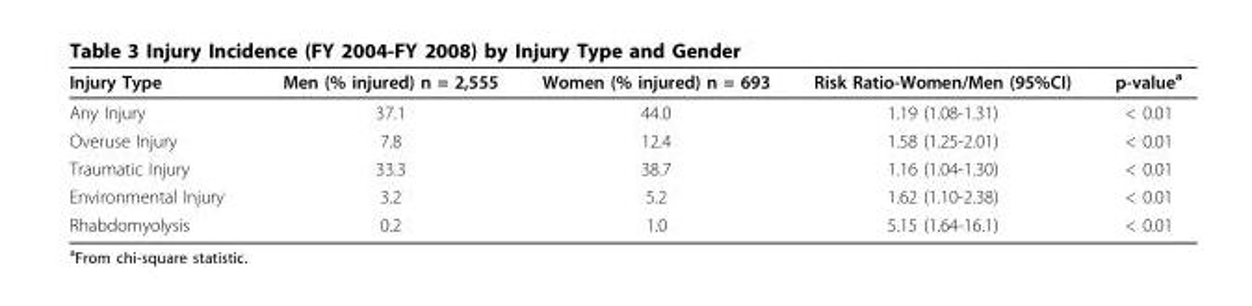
<table><thead><tr><td>Injury Type</td><td>Men (% injured) n = 2,555</td><td>Women (% injured) n = 693</td><td>Risk Ratio-Women/Men (95%CI)</td><td>p-value<sup>a</sup></td></tr></thead><tbody><tr><td>Any Injury</td><td>37.1</td><td>44.0</td><td>1.19 (1.08-1.31)</td><td>&lt; 0.01</td></tr><tr><td>Overuse Injury</td><td>7.8</td><td>12.4</td><td>1.58 (1.25-2.01)</td><td>&lt; 0.01</td></tr><tr><td>Traumatic Injury</td><td>33.3</td><td>38.7</td><td>1.16 (1.04-1.30)</td><td>&lt; 0.01</td></tr><tr><td>Environmental Injury</td><td>3.2</td><td>5.2</td><td>1.62 (1.10-2.38)</td><td>&lt; 0.01</td></tr><tr><td>Rhabdomyolysis</td><td>0.2</td><td>1.0</td><td>5.15 (1.64-16.1)</td><td>&lt; 0.01</td></tr></tbody></table>